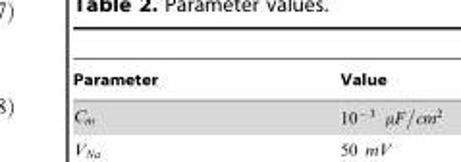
<table><thead><tr><td>Parameter</td><td>Value</td></tr></thead><tbody></tbody></table>